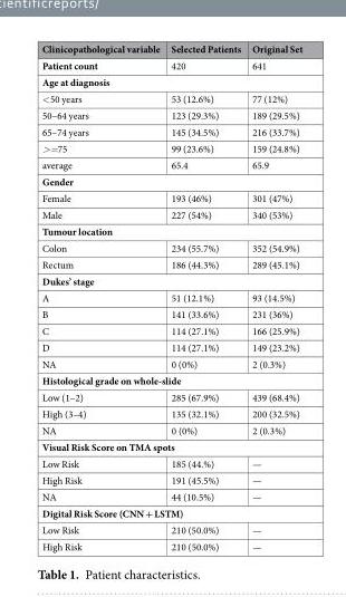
<table><thead><tr><td>Clinicopathological variable</td><td>Selected Patients</td><td>Original Set</td></tr></thead><tbody><tr><td>Patient count</td><td>420</td><td>641</td></tr><tr><td colspan="3">Age at diagnosis</td></tr><tr><td>&lt;50 years</td><td>53 (12.6%)</td><td>77 (12%)</td></tr><tr><td>50–64 years</td><td>123 (29.3%)</td><td>189 (29.5%)</td></tr><tr><td>65–74 years</td><td>145 (34.5%)</td><td>216 (33.7%)</td></tr><tr><td>&gt;=75</td><td>99 (23.6%)</td><td>159 (24.8%)</td></tr><tr><td>average</td><td>65.4</td><td>65.9</td></tr><tr><td colspan="3">Gender</td></tr><tr><td>Female</td><td>193 (46%)</td><td>301 (47%)</td></tr><tr><td>Male</td><td>227 (54%)</td><td>340 (53%)</td></tr><tr><td colspan="3">Tumour location</td></tr><tr><td>Colon</td><td>234 (55.7%)</td><td>352 (54.9%)</td></tr><tr><td>Rectum</td><td>186 (44.3%)</td><td>289 (45.1%)</td></tr><tr><td colspan="3">Dukes’ stage</td></tr><tr><td>A</td><td>51 (12.1%)</td><td>93 (14.5%)</td></tr><tr><td>B</td><td>141 (33.6%)</td><td>231 (36%)</td></tr><tr><td>C</td><td>114 (27.1%)</td><td>166 (25.9%)</td></tr><tr><td>D</td><td>114 (27.1%)</td><td>149 (23.2%)</td></tr><tr><td>NA</td><td>0 (0%)</td><td>2 (0.3%)</td></tr><tr><td colspan="3">Histological grade on whole-slide</td></tr><tr><td>Low (1–2)</td><td>285 (67.9%)</td><td>439 (68.4%)</td></tr><tr><td>High (3–4)</td><td>135 (32.1%)</td><td>200 (32.5%)</td></tr><tr><td>NA</td><td>0 (0%)</td><td>2 (0.3%)</td></tr><tr><td colspan="3">Visual Risk Score on TMA spots</td></tr><tr><td>Low Risk</td><td>185 (44.%)</td><td>—</td></tr><tr><td>High Risk</td><td>191 (45.5%)</td><td>—</td></tr><tr><td>NA</td><td>44 (10.5%)</td><td>—</td></tr><tr><td colspan="3">Digital Risk Score (CNN + LSTM)</td></tr><tr><td>Low Risk</td><td>210 (50.0%)</td><td>—</td></tr><tr><td>High Risk</td><td>210 (50.0%)</td><td>—</td></tr></tbody></table>